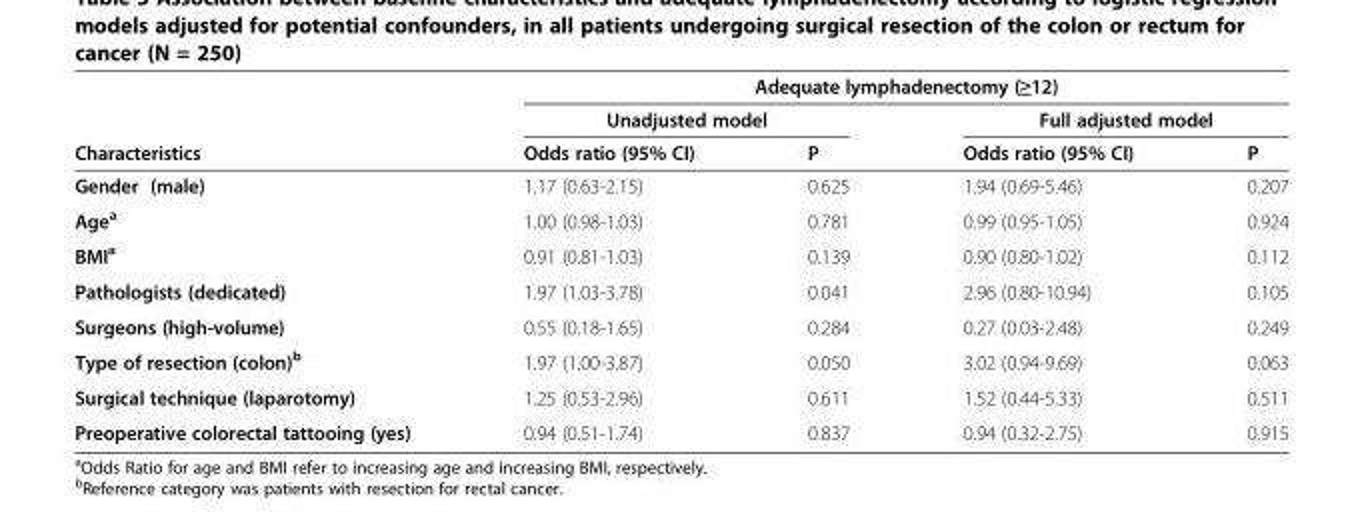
<table><thead><tr><td rowspan="3">Characteristics</td><td colspan="4">Adequate lymphadenectomy (≥12)</td></tr><tr><td colspan="2">Unadjusted model</td><td colspan="2">Full adjusted model</td></tr><tr><td>Odds ratio (95% CI)</td><td>P</td><td>Odds ratio (95% CI)</td><td>P</td></tr></thead><tbody><tr><td>Gender (male)</td><td>1.17 (0.63-2.15)</td><td>0.625</td><td>1.94 (0.69-5.46)</td><td>0.207</td></tr><tr><td>Age<sup>a</sup></td><td>1.00 (0.98-1.03)</td><td>0.781</td><td>0.99 (0.95-1.05)</td><td>0.924</td></tr><tr><td>BMI<sup>a</sup></td><td>0.91 (0.81-1.03)</td><td>0.139</td><td>0.90 (0.80-1.02)</td><td>0.112</td></tr><tr><td>Pathologists (dedicated)</td><td>1.97 (1.03-3.78)</td><td>0.041</td><td>2.96 (0.80-10.94)</td><td>0.105</td></tr><tr><td>Surgeons (high-volume)</td><td>0.55 (0.18-1.65)</td><td>0.284</td><td>0.27 (0.03-2.48)</td><td>0.249</td></tr><tr><td>Type of resection (colon)<sup>b</sup></td><td>1.97 (1.00-3.87)</td><td>0.050</td><td>3.02 (0.94-9.69)</td><td>0.063</td></tr><tr><td>Surgical technique (laparotomy)</td><td>1.25 (0.53-2.96)</td><td>0.611</td><td>1.52 (0.44-5.33)</td><td>0.511</td></tr><tr><td>Preoperative colorectal tattooing (yes)</td><td>0.94 (0.51-1.74)</td><td>0.837</td><td>0.94 (0.32-2.75)</td><td>0.915</td></tr></tbody></table>